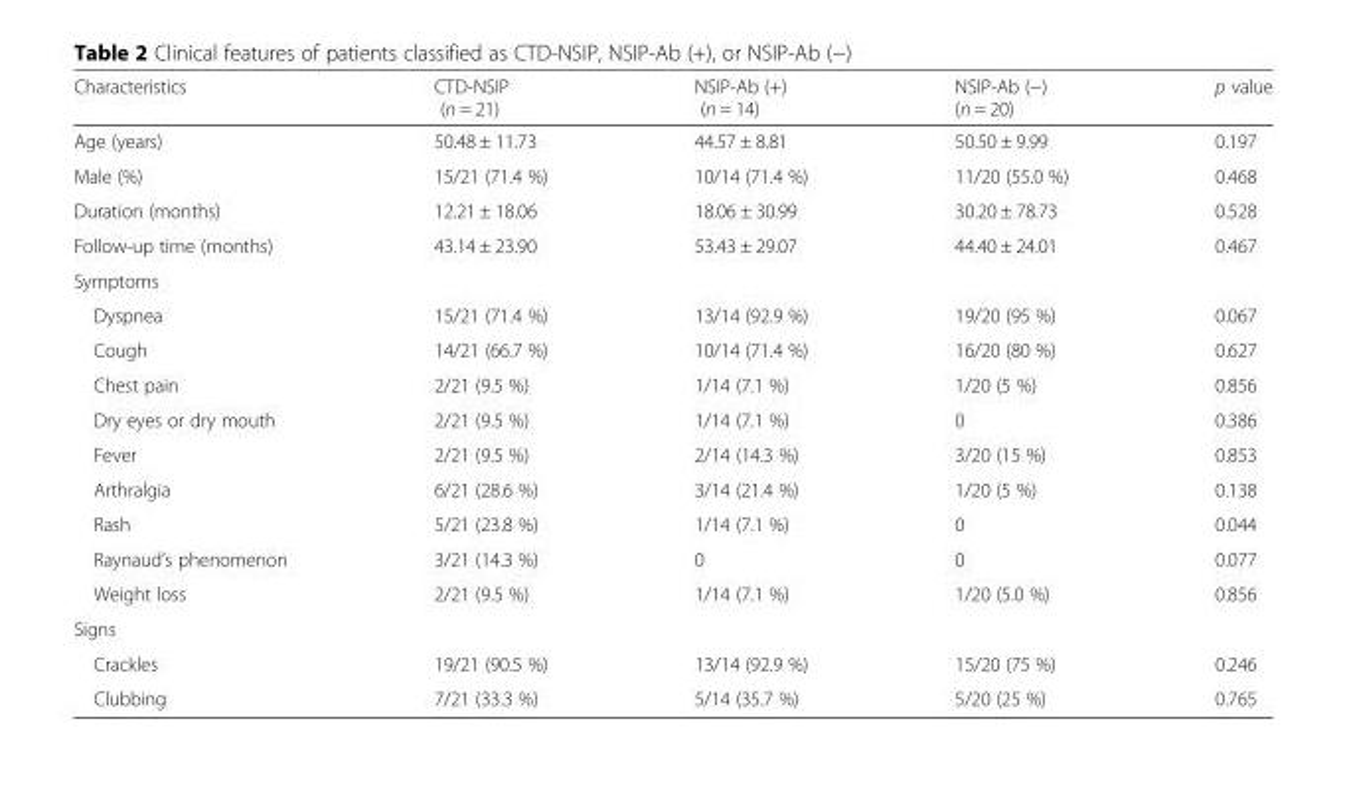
<table><thead><tr><td>Characteristics</td><td>CTD-NSIP (n = 21)</td><td>NSIP-Ab (+) (n = 14)</td><td>NSIP-Ab (−) (n = 20)</td><td>p value</td></tr></thead><tbody><tr><td>Age (years)</td><td>50.48 ± 11.73</td><td>44.57 ± 8.81</td><td>50.50 ± 9.99</td><td>0.197</td></tr><tr><td>Male (%)</td><td>15/21 (71.4 %)</td><td>10/14 (71.4 %)</td><td>11/20 (55.0 %)</td><td>0.468</td></tr><tr><td>Duration (months)</td><td>12.21 ± 18.06</td><td>18.06 ± 30.99</td><td>30.20 ± 78.73</td><td>0.528</td></tr><tr><td>Follow-up time (months)</td><td>43.14 ± 23.90</td><td>53.43 ± 29.07</td><td>44.40 ± 24.01</td><td>0.467</td></tr><tr><td colspan="5">Symptoms</td></tr><tr><td>Dyspnea</td><td>15/21 (71.4 %)</td><td>13/14 (92.9 %)</td><td>19/20 (95 %)</td><td>0.067</td></tr><tr><td>Cough</td><td>14/21 (66.7 %)</td><td>10/14 (71.4 %)</td><td>16/20 (80 %)</td><td>0.627</td></tr><tr><td>Chest pain</td><td>2/21 (9.5 %)</td><td>1/14 (7.1 %)</td><td>1/20 (5 %)</td><td>0.856</td></tr><tr><td>Dry eyes or dry mouth</td><td>2/21 (9.5 %)</td><td>1/14 (7.1 %)</td><td>0</td><td>0.386</td></tr><tr><td>Fever</td><td>2/21 (9.5 %)</td><td>2/14 (14.3 %)</td><td>3/20 (15 %)</td><td>0.853</td></tr><tr><td>Arthralgia</td><td>6/21 (28.6 %)</td><td>3/14 (21.4 %)</td><td>1/20 (5 %)</td><td>0.138</td></tr><tr><td>Rash</td><td>5/21 (23.8 %)</td><td>1/14 (7.1 %)</td><td>0</td><td>0.044</td></tr><tr><td>Raynaud’s phenomenon</td><td>3/21 (14.3 %)</td><td>0</td><td>0</td><td>0.077</td></tr><tr><td>Weight loss</td><td>2/21 (9.5 %)</td><td>1/14 (7.1 %)</td><td>1/20 (5.0 %)</td><td>0.856</td></tr><tr><td colspan="5">Signs</td></tr><tr><td>Crackles</td><td>19/21 (90.5 %)</td><td>13/14 (92.9 %)</td><td>15/20 (75 %)</td><td>0.246</td></tr><tr><td>Clubbing</td><td>7/21 (33.3 %)</td><td>5/14 (35.7 %)</td><td>5/20 (25 %)</td><td>0.765</td></tr></tbody></table>